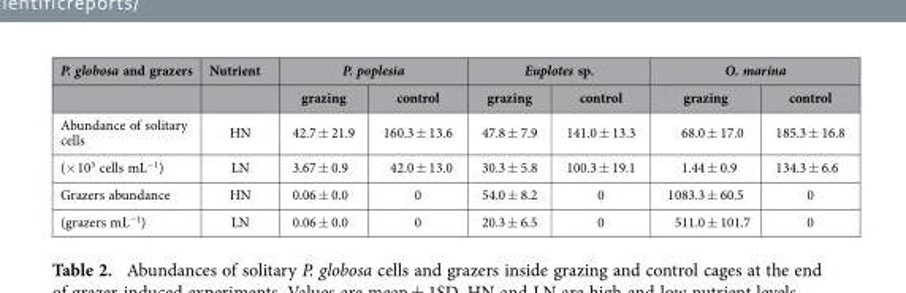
<table><thead><tr><td rowspan="2">P. globosa and grazers</td><td rowspan="2">Nutrient</td><td colspan="2">P. poplesia</td><td colspan="2">Euplotes sp.</td><td colspan="2">O. marina</td></tr><tr><td>grazing</td><td>control</td><td>grazing</td><td>control</td><td>grazing</td><td>control</td></tr></thead><tbody><tr><td>Abundance of solitary cells</td><td>HN</td><td>42.7 ± 21.9</td><td>160.3 ± 13.6</td><td>47.8 ± 7.9</td><td>141.0 ± 13.3</td><td>68.0 ± 17.0</td><td>185.3 ± 16.8</td></tr><tr><td>(× 10<sup>3</sup> cells mL<sup>−1</sup>)</td><td>LN</td><td>3.67 ± 0.9</td><td>42.0 ± 13.0</td><td>30.3 ± 5.8</td><td>100.3 ± 19.1</td><td>1.44 ± 0.9</td><td>134.3 ± 6.6</td></tr><tr><td>Grazers abundance</td><td>HN</td><td>0.06 ± 0.0</td><td>0</td><td>54.0 ± 8.2</td><td>0</td><td>1083.3 ± 60.5</td><td>0</td></tr><tr><td>(grazers mL<sup>−1</sup>)</td><td>LN</td><td>0.06 ± 0.0</td><td>0</td><td>20.3 ± 6.5</td><td>0</td><td>511.0 ± 101.7</td><td>0</td></tr></tbody></table>